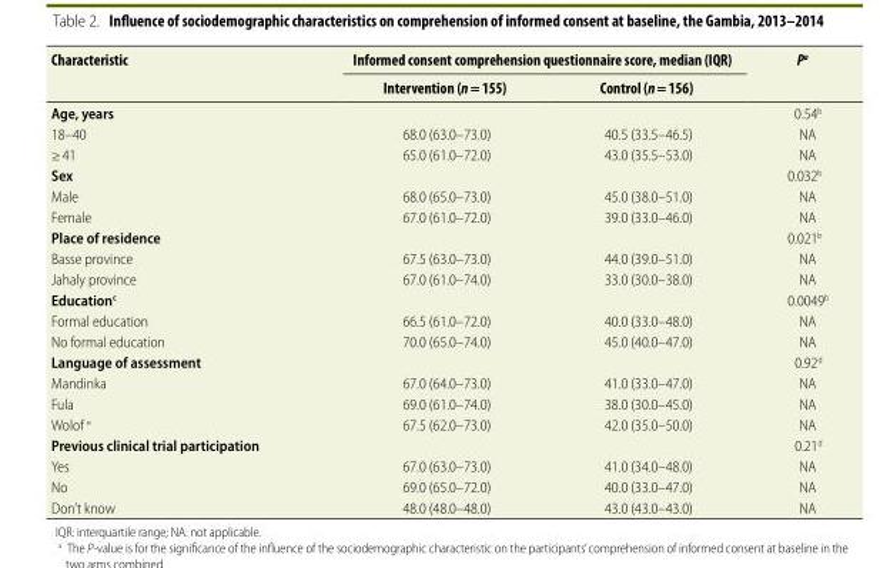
<table><thead><tr><td rowspan="2">Characteristic</td><td colspan="2">Informed consent comprehension questionnaire score, median (IQR)</td><td rowspan="2">P<sup>a</sup></td></tr><tr><td>Intervention (n = 155)</td><td>Control (n = 156)</td></tr></thead><tbody><tr><td>Age, years</td><td></td><td></td><td>0.54<sup>b</sup></td></tr><tr><td>18–40</td><td>68.0 (63.0–73.0)</td><td>40.5 (33.5–46.5)</td><td>NA</td></tr><tr><td>≥ 41</td><td>65.0 (61.0–72.0)</td><td>43.0 (35.5–53.0)</td><td>NA</td></tr><tr><td>Sex</td><td></td><td></td><td>0.032<sup>b</sup></td></tr><tr><td>Male</td><td>68.0 (65.0–73.0)</td><td>45.0 (38.0–51.0)</td><td>NA</td></tr><tr><td>Female</td><td>67.0 (61.0–72.0)</td><td>39.0 (33.0–46.0)</td><td>NA</td></tr><tr><td>Place of residence</td><td></td><td></td><td>0.021<sup>b</sup></td></tr><tr><td>Basse province</td><td>67.5 (63.0–73.0)</td><td>44.0 (39.0–51.0)</td><td>NA</td></tr><tr><td>Jahaly province</td><td>67.0 (61.0–74.0)</td><td>33.0 (30.0–38.0)</td><td>NA</td></tr><tr><td>Education<sup>c</sup></td><td></td><td></td><td>0.0049<sup>b</sup></td></tr><tr><td>Formal education</td><td>66.5 (61.0–72.0)</td><td>40.0 (33.0–48.0)</td><td>NA</td></tr><tr><td>No formal education</td><td>70.0 (65.0–74.0)</td><td>45.0 (40.0–47.0)</td><td>NA</td></tr><tr><td>Language of assessment</td><td></td><td></td><td>0.92<sup>d</sup></td></tr><tr><td>Mandinka</td><td>67.0 (64.0–73.0)</td><td>41.0 (33.0–47.0)</td><td>NA</td></tr><tr><td>Fula</td><td>69.0 (61.0–74.0)</td><td>38.0 (30.0–45.0)</td><td>NA</td></tr><tr><td>Wolof <sup>e</sup></td><td>67.5 (62.0–73.0)</td><td>42.0 (35.0–50.0)</td><td>NA</td></tr><tr><td>Previous clinical trial participation</td><td></td><td></td><td>0.21<sup>d</sup></td></tr><tr><td>Yes</td><td>67.0 (63.0–73.0)</td><td>41.0 (34.0–48.0)</td><td>NA</td></tr><tr><td>No</td><td>69.0 (65.0–72.0)</td><td>40.0 (33.0–47.0)</td><td>NA</td></tr><tr><td>Don’t know</td><td>48.0 (48.0–48.0)</td><td>43.0 (43.0–43.0)</td><td>NA</td></tr></tbody></table>